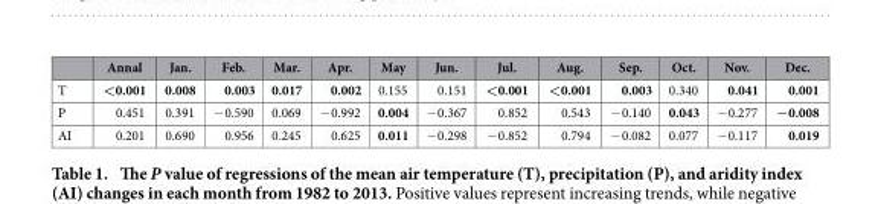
<table><thead><tr><td></td><td>Annal</td><td>Jan.</td><td>Feb.</td><td>Mar.</td><td>Apr.</td><td>May</td><td>Jun.</td><td>Jul.</td><td>Aug.</td><td>Sep.</td><td>Oct.</td><td>Nov.</td><td>Dec.</td></tr></thead><tbody><tr><td>T</td><td>&lt;0.001</td><td>0.008</td><td>0.003</td><td>0.017</td><td>0.002</td><td>0.155</td><td>0.151</td><td>&lt;0.001</td><td>&lt;0.001</td><td>0.003</td><td>0.340</td><td>0.041</td><td>0.001</td></tr><tr><td>P</td><td>0.451</td><td>0.391</td><td>− 0.590</td><td>0.069</td><td>− 0.992</td><td>0.004</td><td>− 0.367</td><td>0.852</td><td>0.543</td><td>− 0.140</td><td>0.043</td><td>− 0.277</td><td>−0.008</td></tr><tr><td>AI</td><td>0.201</td><td>0.690</td><td>0.956</td><td>0.245</td><td>0.625</td><td>0.011</td><td>− 0.298</td><td>− 0.852</td><td>0.794</td><td>− 0.082</td><td>0.077</td><td>− 0.117</td><td>0.019</td></tr></tbody></table>